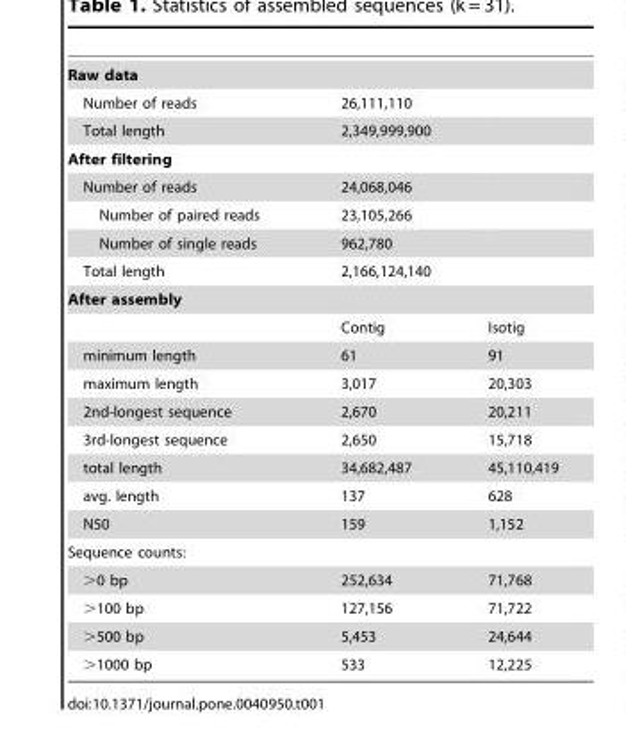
<table><tbody><tr><td colspan="3">Raw data</td></tr><tr><td>Number of reads</td><td>26,111,110</td><td></td></tr><tr><td>Total length</td><td>2,349,999,900</td><td></td></tr><tr><td colspan="3">After filtering</td></tr><tr><td>Number of reads</td><td>24,068,046</td><td></td></tr><tr><td>Number of paired reads</td><td>23,105,266</td><td></td></tr><tr><td>Number of single reads</td><td>962,780</td><td></td></tr><tr><td>Total length</td><td>2,166,124,140</td><td></td></tr><tr><td colspan="3">After assembly</td></tr><tr><td></td><td>Contig</td><td>Isotig</td></tr><tr><td>minimum length</td><td>61</td><td>91</td></tr><tr><td>maximum length</td><td>3,017</td><td>20,303</td></tr><tr><td>2nd-longest sequence</td><td>2,670</td><td>20,211</td></tr><tr><td>3rd-longest sequence</td><td>2,650</td><td>15,718</td></tr><tr><td>total length</td><td>34,682,487</td><td>45,110,419</td></tr><tr><td>avg. length</td><td>137</td><td>628</td></tr><tr><td>N50</td><td>159</td><td>1,152</td></tr><tr><td colspan="3">Sequence counts:</td></tr><tr><td>&gt;0 bp</td><td>252,634</td><td>71,768</td></tr><tr><td>&gt;100 bp</td><td>127,156</td><td>71,722</td></tr><tr><td>&gt;500 bp</td><td>5,453</td><td>24,644</td></tr><tr><td>&gt;1000 bp</td><td>533</td><td>12,225</td></tr></tbody></table>